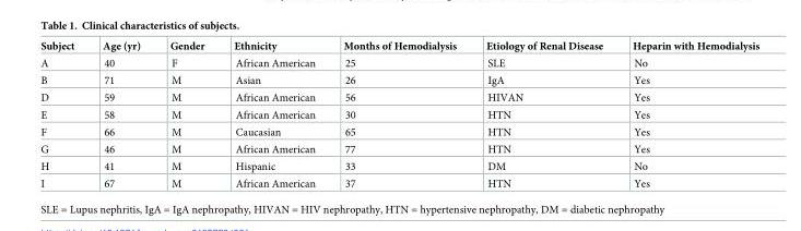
<table><thead><tr><td>Subject</td><td>Age (yr)</td><td>Gender</td><td>Ethnicity</td><td>Months of Hemodialysis</td><td>Etiology of Renal Disease</td><td>Heparin with Hemodialysis</td></tr></thead><tbody><tr><td>A</td><td>40</td><td>F</td><td>African American</td><td>25</td><td>SLE</td><td>No</td></tr><tr><td>B</td><td>71</td><td>M</td><td>Asian</td><td>26</td><td>IgA</td><td>Yes</td></tr><tr><td>D</td><td>59</td><td>M</td><td>African American</td><td>56</td><td>HIVAN</td><td>Yes</td></tr><tr><td>E</td><td>58</td><td>M</td><td>African American</td><td>30</td><td>HTN</td><td>Yes</td></tr><tr><td>F</td><td>66</td><td>M</td><td>Caucasian</td><td>65</td><td>HTN</td><td>Yes</td></tr><tr><td>G</td><td>46</td><td>M</td><td>African American</td><td>77</td><td>HTN</td><td>Yes</td></tr><tr><td>H</td><td>41</td><td>M</td><td>Hispanic</td><td>33</td><td>DM</td><td>No</td></tr><tr><td>I</td><td>67</td><td>M</td><td>African American</td><td>37</td><td>HTN</td><td>Yes</td></tr></tbody></table>